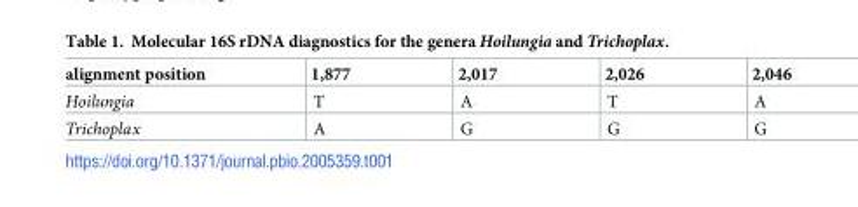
<table><thead><tr><td>alignment position</td><td>1,877</td><td>2,017</td><td>2,026</td><td>2,046</td></tr></thead><tbody><tr><td>Hoilungia</td><td>T</td><td>A</td><td>T</td><td>A</td></tr><tr><td>Trichoplax</td><td>A</td><td>G</td><td>G</td><td>G</td></tr></tbody></table>